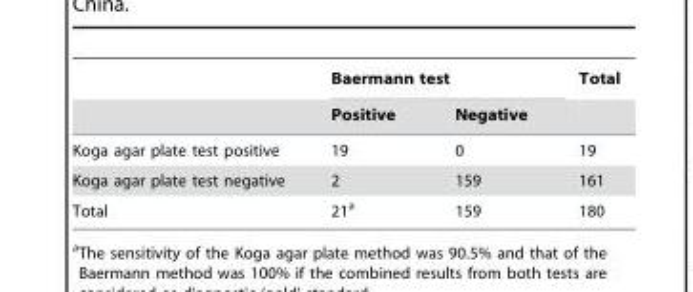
<table><thead><tr><td rowspan="2"></td><td colspan="2">Baermann test</td><td rowspan="2">Total</td></tr><tr><td>Positive</td><td>Negative</td></tr></thead><tbody><tr><td>Koga agar plate test positive</td><td>19</td><td>0</td><td>19</td></tr><tr><td>Koga agar plate test negative</td><td>2</td><td>159</td><td>161</td></tr><tr><td>Total</td><td>21<sup>a</sup></td><td>159</td><td>180</td></tr></tbody></table>